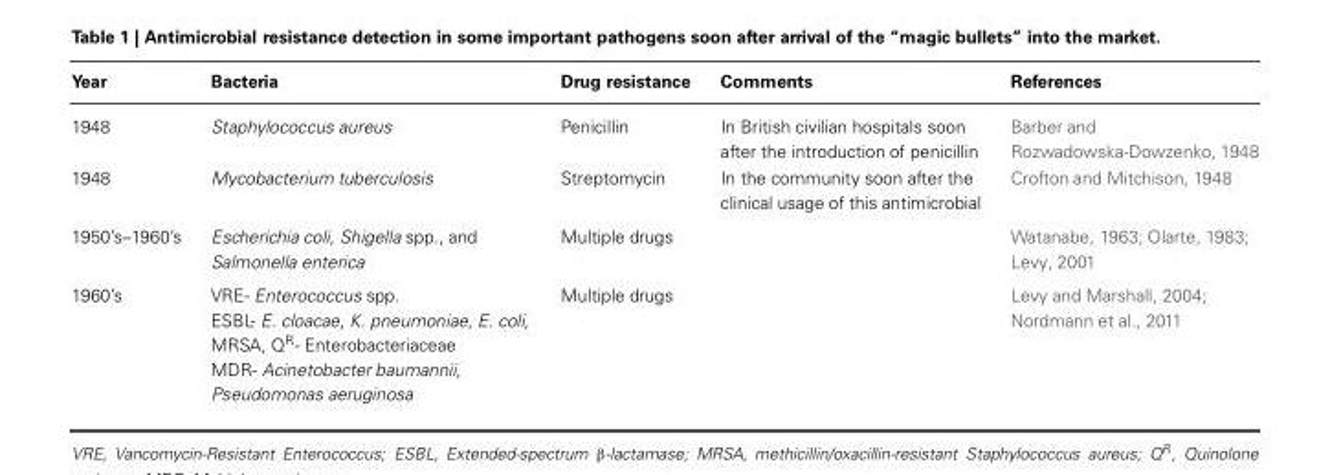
<table><thead><tr><td>Year</td><td>Bacteria</td><td>Drug resistance</td><td>Comments</td><td>References</td></tr></thead><tbody><tr><td>1948</td><td>Staphylococcus aureus</td><td>Penicillin</td><td>In British civilian hospitals soon after the introduction of penicillin</td><td>Barber and Rozwadowska-Dowzenko, 1948</td></tr><tr><td>1948</td><td>Mycobacterium tuberculosis</td><td>Streptomycin</td><td>In the community soon after the clinical usage of this antimicrobial</td><td>Crofton and Mitchison, 1948</td></tr><tr><td>1950’s–1960’s</td><td>Escherichia coli, Shigella spp., and Salmonella enterica</td><td>Multiple drugs</td><td></td><td>Watanabe, 1963; Olarte, 1983; Levy, 2001</td></tr><tr><td>1960’s</td><td>VRE- Enterococcus spp. ESBL- E. cloacae, K. pneumoniae, E. coli, MRSA, Q<sup>R</sup>- Enterobacteriaceae MDR- Acinetobacter baumannii, Pseudomonas aeruginosa</td><td>Multiple drugs</td><td></td><td>Levy and Marshall, 2004; Nordmann et al., 2011</td></tr></tbody></table>